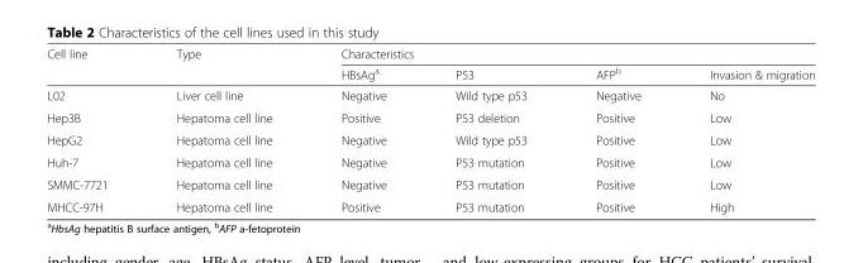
<table><thead><tr><td rowspan="2">Cell line</td><td rowspan="2">Type</td><td colspan="4">Characteristics</td></tr><tr><td>HBsAg<sup>a</sup></td><td>P53</td><td>AFP<sup>b</sup></td><td>Invasion &amp; migration</td></tr></thead><tbody><tr><td>L02</td><td>Liver cell line</td><td>Negative</td><td>Wild type p53</td><td>Negative</td><td>No</td></tr><tr><td>Hep3B</td><td>Hepatoma cell line</td><td>Positive</td><td>P53 deletion</td><td>Positive</td><td>Low</td></tr><tr><td>HepG2</td><td>Hepatoma cell line</td><td>Negative</td><td>Wild type p53</td><td>Positive</td><td>Low</td></tr><tr><td>Huh-7</td><td>Hepatoma cell line</td><td>Negative</td><td>P53 mutation</td><td>Positive</td><td>Low</td></tr><tr><td>SMMC-7721</td><td>Hepatoma cell line</td><td>Negative</td><td>P53 mutation</td><td>Positive</td><td>Low</td></tr><tr><td>MHCC-97H</td><td>Hepatoma cell line</td><td>Positive</td><td>P53 mutation</td><td>Positive</td><td>High</td></tr></tbody></table>